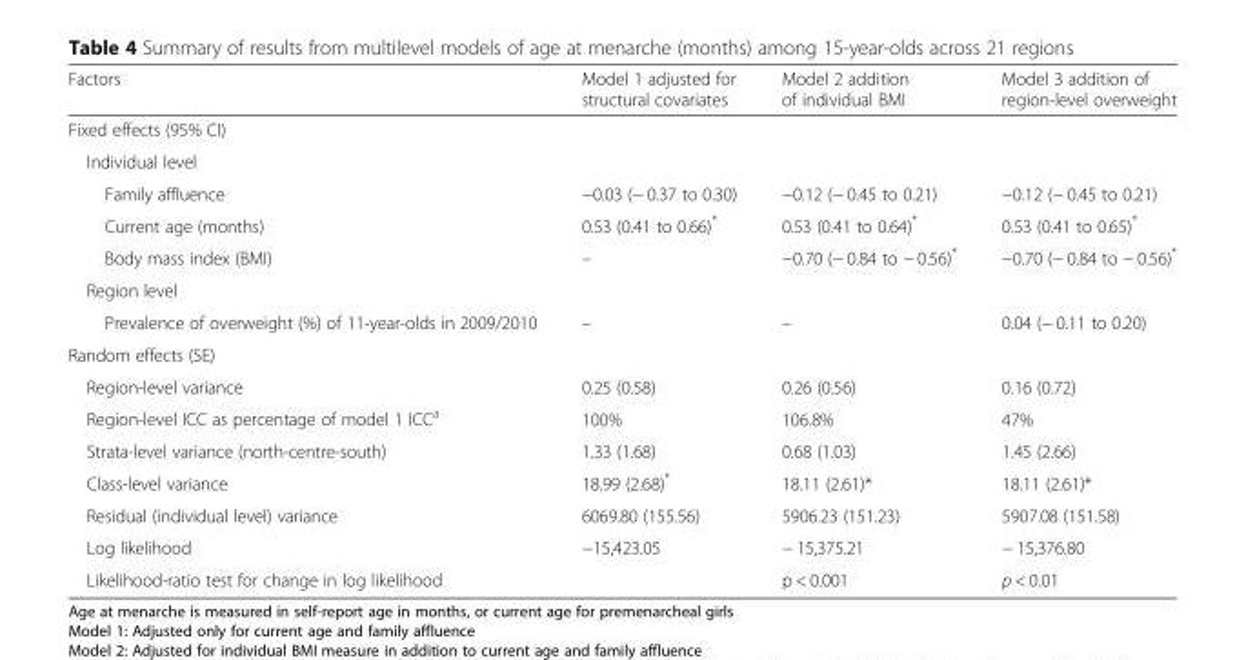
<table><thead><tr><td>Factors</td><td>Model 1 adjusted for structural covariates</td><td>Model 2 addition of individual BMI</td><td>Model 3 addition of region-level overweight</td></tr></thead><tbody><tr><td colspan="4">Fixed effects (95% CI)</td></tr><tr><td colspan="4">Individual level</td></tr><tr><td>Family affluence</td><td>−0.03 (− 0.37 to 0.30)</td><td>−0.12 (− 0.45 to 0.21)</td><td>−0.12 (− 0.45 to 0.21)</td></tr><tr><td>Current age (months)</td><td>0.53 (0.41 to 0.66)*</td><td>0.53 (0.41 to 0.64)*</td><td>0.53 (0.41 to 0.65)*</td></tr><tr><td>Body mass index (BMI)</td><td>–</td><td>−0.70 (− 0.84 to − 0.56)*</td><td>−0.70 (− 0.84 to − 0.56)*</td></tr><tr><td colspan="4">Region level</td></tr><tr><td>Prevalence of overweight (%) of 11-year-olds in 2009/2010</td><td>–</td><td>–</td><td>0.04 (− 0.11 to 0.20)</td></tr><tr><td colspan="4">Random effects (SE)</td></tr><tr><td>Region-level variance</td><td>0.25 (0.58)</td><td>0.26 (0.56)</td><td>0.16 (0.72)</td></tr><tr><td>Region-level ICC as percentage of model 1 ICC<sup>a</sup></td><td>100%</td><td>106.8%</td><td>47%</td></tr><tr><td>Strata-level variance (north-centre-south)</td><td>1.33 (1.68)</td><td>0.68 (1.03)</td><td>1.45 (2.66)</td></tr><tr><td>Class-level variance</td><td>18.99 (2.68)*</td><td>18.11 (2.61)*</td><td>18.11 (2.61)*</td></tr><tr><td>Residual (individual level) variance</td><td>6069.80 (155.56)</td><td>5906.23 (151.23)</td><td>5907.08 (151.58)</td></tr><tr><td>Log likelihood</td><td>−15,423.05</td><td>− 15,375.21</td><td>− 15,376.80</td></tr><tr><td>Likelihood-ratio test for change in log likelihood</td><td></td><td>p &lt; 0.001</td><td>p &lt; 0.01</td></tr></tbody></table>